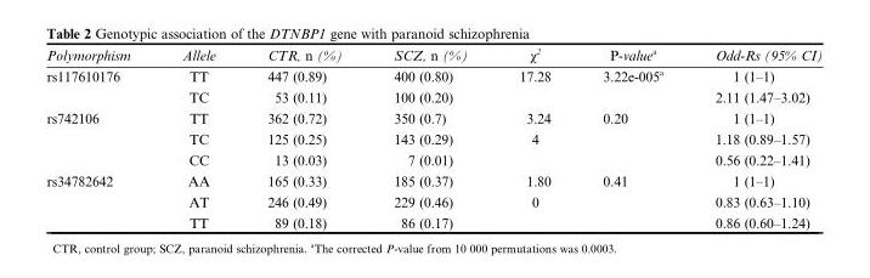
<table><thead><tr><td>Polymorphism</td><td>Allele</td><td>CTR, n (%)</td><td>SCZ, n (%)</td><td>χ<sup>2</sup></td><td>P-valuea</td><td>Odd-Rs (95% CI)</td></tr></thead><tbody><tr><td rowspan="2">rs117610176</td><td>TT</td><td>447 (0.89)</td><td>400 (0.80)</td><td>17.28</td><td>3.22e-005<sup>a</sup></td><td>1 (1–1)</td></tr><tr><td>TC</td><td>53 (0.11)</td><td>100 (0.20)</td><td></td><td></td><td>2.11 (1.47–3.02)</td></tr><tr><td rowspan="3">rs742106</td><td>TT</td><td>362 (0.72)</td><td>350 (0.7)</td><td>3.24</td><td>0.20</td><td>1 (1–1)</td></tr><tr><td>TC</td><td>125 (0.25)</td><td>143 (0.29)</td><td>4</td><td></td><td>1.18 (0.89–1.57)</td></tr><tr><td>CC</td><td>13 (0.03)</td><td>7 (0.01)</td><td></td><td></td><td>0.56 (0.22–1.41)</td></tr><tr><td rowspan="3">rs34782642</td><td>AA</td><td>165 (0.33)</td><td>185 (0.37)</td><td>1.80</td><td>0.41</td><td>1 (1–1)</td></tr><tr><td>AT</td><td>246 (0.49)</td><td>229 (0.46)</td><td>0</td><td></td><td>0.83 (0.63–1.10)</td></tr><tr><td>TT</td><td>89 (0.18)</td><td>86 (0.17)</td><td></td><td></td><td>0.86 (0.60–1.24)</td></tr></tbody></table>